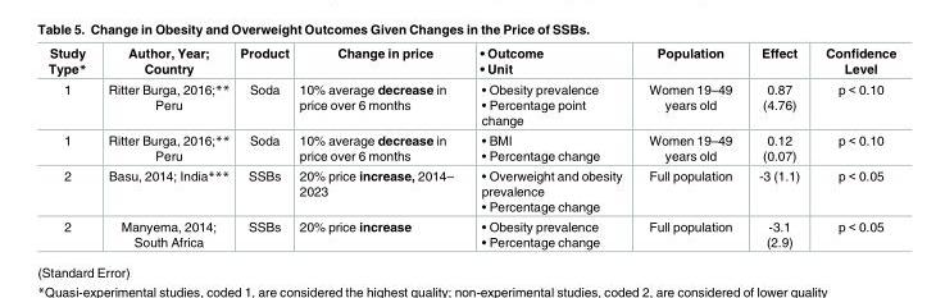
<table><thead><tr><td>Study Type*</td><td>Author, Year; Country</td><td>Product</td><td>Change in price</td><td>• Outcome • Unit</td><td>Population</td><td>Effect</td><td>Confidence Level</td></tr></thead><tbody><tr><td>1</td><td>Ritter Burga, 2016;** Peru</td><td>Soda</td><td>10% average decrease in price over 6 months</td><td>• Obesity prevalence • Percentage point change</td><td>Women 19–49 years old</td><td>0.87 (4.76)</td><td>p &lt; 0.10</td></tr><tr><td>1</td><td>Ritter Burga, 2016;** Peru</td><td>Soda</td><td>10% average decrease in price over 6 months</td><td>• BMI • Percentage change</td><td>Women 19–49 years old</td><td>0.12 (0.07)</td><td>p &lt; 0.10</td></tr><tr><td>2</td><td>Basu, 2014; India***</td><td>SSBs</td><td>20% price increase, 2014– 2023</td><td>• Overweight and obesity prevalence • Percentage change</td><td>Full population</td><td>-3 (1.1)</td><td>p &lt; 0.05</td></tr><tr><td>2</td><td>Manyema, 2014; South Africa</td><td>SSBs</td><td>20% price increase</td><td>• Obesity prevalence • Percentage change</td><td>Full population</td><td>-3.1 (2.9)</td><td>p &lt; 0.05</td></tr></tbody></table>